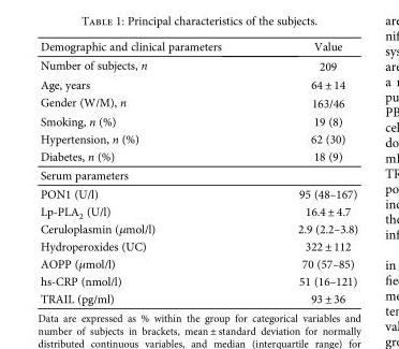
<table><thead><tr><td>Demographic and clinical parameters</td><td>Value</td></tr></thead><tbody><tr><td>Number of subjects, n</td><td>209</td></tr><tr><td>Age, years</td><td>64 ± 14</td></tr><tr><td>Gender (W/M), n</td><td>163/46</td></tr><tr><td>Smoking, n (%)</td><td>19 (8)</td></tr><tr><td>Hypertension, n (%)</td><td>62 (30)</td></tr><tr><td>Diabetes, n (%)</td><td>18 (9)</td></tr><tr><td colspan="2">Serum parameters</td></tr><tr><td>PON1 (U/l)</td><td>95 (48–167)</td></tr><tr><td>Lp-PLA<sub>2</sub> (U/l)</td><td>16.4 ± 4.7</td></tr><tr><td>Ceruloplasmin (μmol/l)</td><td>2.9 (2.2–3.8)</td></tr><tr><td>Hydroperoxides (UC)</td><td>322 ± 112</td></tr><tr><td>AOPP (μmol/l)</td><td>70 (57–85)</td></tr><tr><td>hs-CRP (nmol/l)</td><td>51 (16–121)</td></tr><tr><td>TRAIL (pg/ml)</td><td>93 ± 36</td></tr></tbody></table>